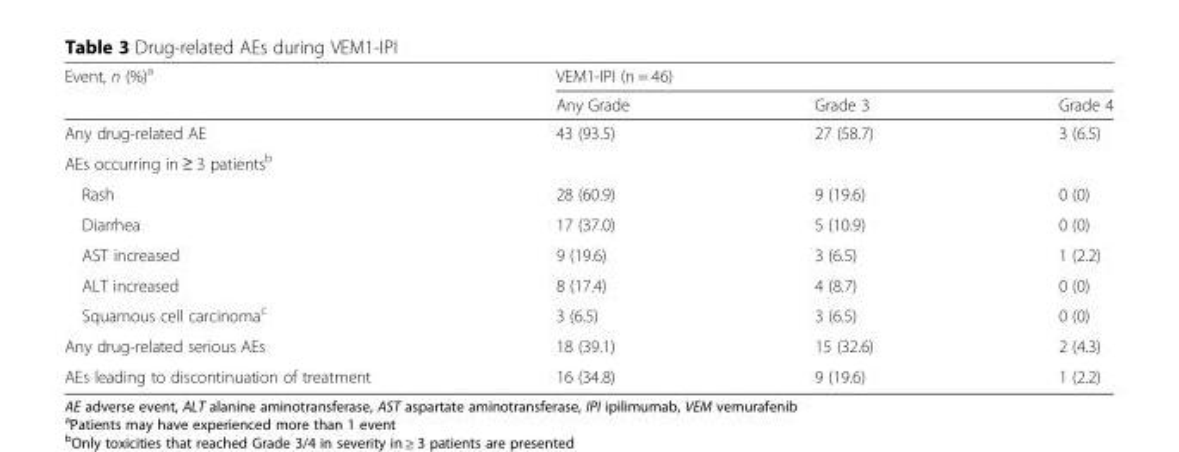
<table><thead><tr><td rowspan="2">Event, n (%)<sup>a</sup></td><td colspan="3">VEM1-IPI (n = 46)</td></tr><tr><td>Any Grade</td><td>Grade 3</td><td>Grade 4</td></tr></thead><tbody><tr><td>Any drug-related AE</td><td>43 (93.5)</td><td>27 (58.7)</td><td>3 (6.5)</td></tr><tr><td colspan="4">AEs occurring in ≥ 3 patients<sup>b</sup></td></tr><tr><td>Rash</td><td>28 (60.9)</td><td>9 (19.6)</td><td>0 (0)</td></tr><tr><td>Diarrhea</td><td>17 (37.0)</td><td>5 (10.9)</td><td>0 (0)</td></tr><tr><td>AST increased</td><td>9 (19.6)</td><td>3 (6.5)</td><td>1 (2.2)</td></tr><tr><td>ALT increased</td><td>8 (17.4)</td><td>4 (8.7)</td><td>0 (0)</td></tr><tr><td>Squamous cell carcinoma<sup>c</sup></td><td>3 (6.5)</td><td>3 (6.5)</td><td>0 (0)</td></tr><tr><td>Any drug-related serious AEs</td><td>18 (39.1)</td><td>15 (32.6)</td><td>2 (4.3)</td></tr><tr><td>AEs leading to discontinuation of treatment</td><td>16 (34.8)</td><td>9 (19.6)</td><td>1 (2.2)</td></tr></tbody></table>